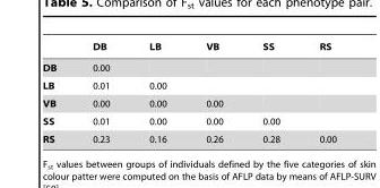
<table><thead><tr><td></td><td>DB</td><td>LB</td><td>VB</td><td>SS</td><td>RS</td></tr></thead><tbody><tr><td>DB</td><td>0.00</td><td></td><td></td><td></td><td></td></tr><tr><td>LB</td><td>0.01</td><td>0.00</td><td></td><td></td><td></td></tr><tr><td>VB</td><td>0.00</td><td>0.00</td><td>0.00</td><td></td><td></td></tr><tr><td>SS</td><td>0.01</td><td>0.00</td><td>0.00</td><td>0.00</td><td></td></tr><tr><td>RS</td><td>0.23</td><td>0.16</td><td>0.26</td><td>0.28</td><td>0.00</td></tr></tbody></table>